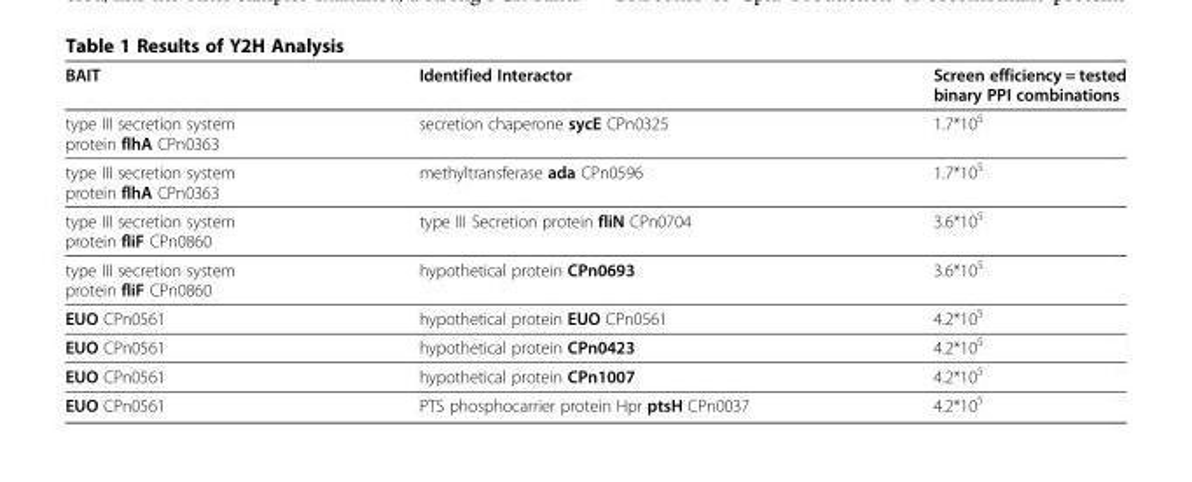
<table><thead><tr><td>BAIT</td><td>Identified Interactor</td><td>Screen efficiency = tested binary PPI combinations</td></tr></thead><tbody><tr><td>type III secretion system protein flhA CPn0363</td><td>secretion chaperone sycE CPn0325</td><td>1.7*10<sup>5</sup></td></tr><tr><td>type III secretion system protein flhA CPn0363</td><td>methyltransferase ada CPn0596</td><td>1.7*10<sup>5</sup></td></tr><tr><td>type III secretion system protein fliF CPn0860</td><td>type III Secretion protein fliN CPn0704</td><td>3.6*10<sup>5</sup></td></tr><tr><td>type III secretion system protein fliF CPn0860</td><td>hypothetical protein CPn0693</td><td>3.6*10<sup>5</sup></td></tr><tr><td>EUO CPn0561</td><td>hypothetical protein EUO CPn0561</td><td>4.2*10<sup>5</sup></td></tr><tr><td>EUO CPn0561</td><td>hypothetical protein CPn0423</td><td>4.2*10<sup>5</sup></td></tr><tr><td>EUO CPn0561</td><td>hypothetical protein CPn1007</td><td>4.2*10<sup>5</sup></td></tr><tr><td>EUO CPn0561</td><td>PTS phosphocarrier protein Hpr ptsH CPn0037</td><td>4.2*10<sup>5</sup></td></tr></tbody></table>